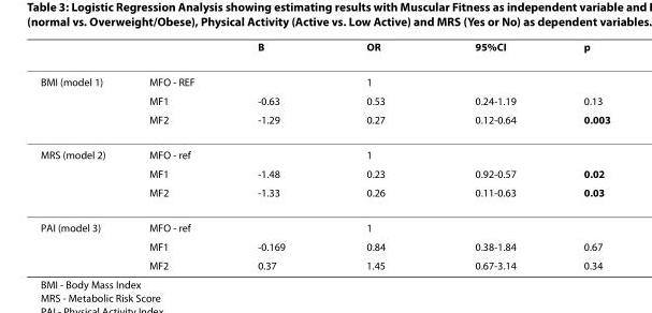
<table><thead><tr><td></td><td></td><td>B</td><td>OR</td><td>95%CI</td><td>p</td></tr></thead><tbody><tr><td rowspan="3">BMI (model 1)</td><td>MFO - REF</td><td></td><td>1</td><td></td><td></td></tr><tr><td>MF1</td><td>-0.63</td><td>0.53</td><td>0.24-1.19</td><td>0.13</td></tr><tr><td>MF2</td><td>-1.29</td><td>0.27</td><td>0.12-0.64</td><td>0.003</td></tr><tr><td rowspan="3">MRS (model 2)</td><td>MFO - ref</td><td></td><td>1</td><td></td><td></td></tr><tr><td>MF1</td><td>-1.48</td><td>0.23</td><td>0.92-0.57</td><td>0.02</td></tr><tr><td>MF2</td><td>-1.33</td><td>0.26</td><td>0.11-0.63</td><td>0.03</td></tr><tr><td rowspan="3">PAI (model 3)</td><td>MFO - ref</td><td></td><td>1</td><td></td><td></td></tr><tr><td>MF1</td><td>-0.169</td><td>0.84</td><td>0.38-1.84</td><td>0.67</td></tr><tr><td>MF2</td><td>0.37</td><td>1.45</td><td>0.67-3.14</td><td>0.34</td></tr></tbody></table>